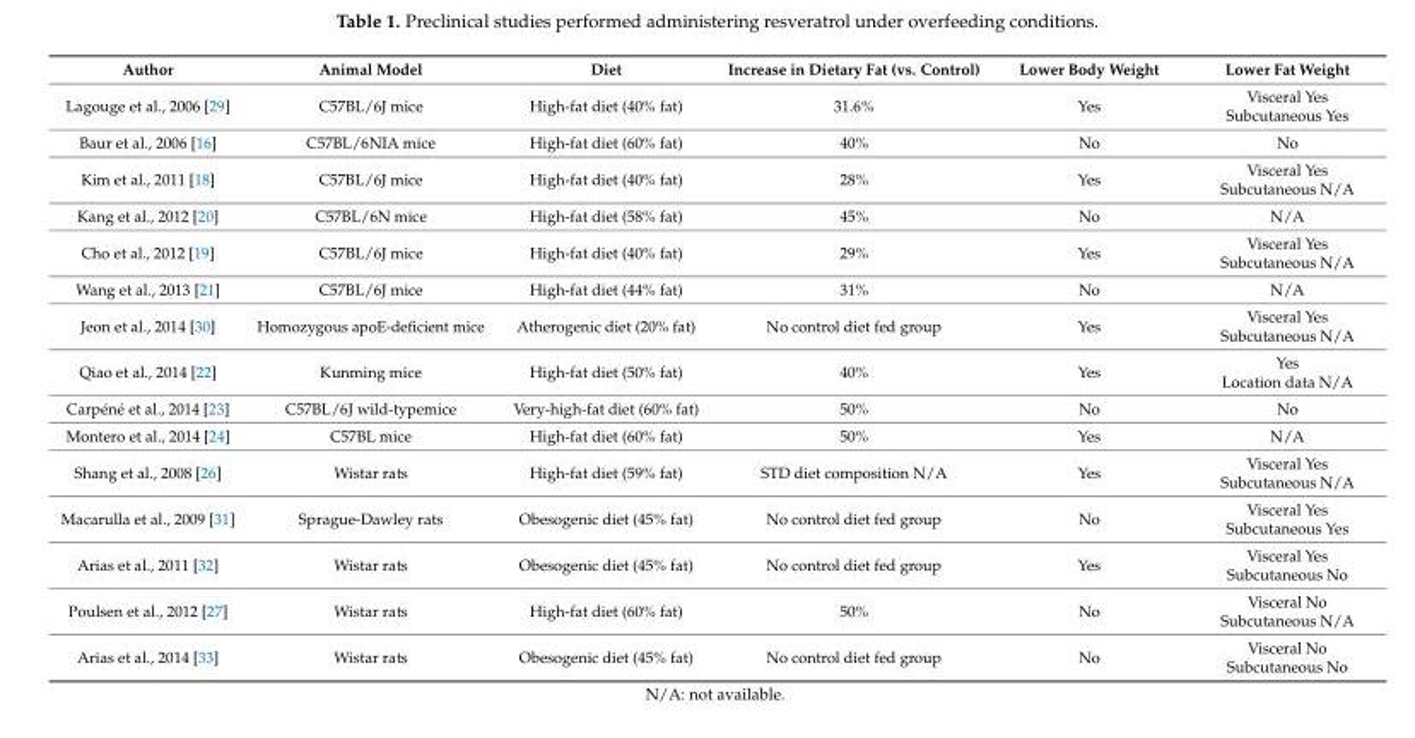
<table><thead><tr><td>Author</td><td>Animal Model</td><td>Diet</td><td>Increase in Dietary Fat (vs. Control)</td><td>Lower Body Weight</td><td>Lower Fat Weight</td></tr></thead><tbody><tr><td>Lagouge et al., 2006 [29]</td><td>C57BL/6J mice</td><td>High-fat diet (40% fat)</td><td>31.6%</td><td>Yes</td><td>Visceral Yes Subcutaneous Yes</td></tr><tr><td>Baur et al., 2006 [16]</td><td>C57BL/6NIA mice</td><td>High-fat diet (60% fat)</td><td>40%</td><td>No</td><td>No</td></tr><tr><td>Kim et al., 2011 [18]</td><td>C57BL/6J mice</td><td>High-fat diet (40% fat)</td><td>28%</td><td>Yes</td><td>Visceral Yes Subcutaneous N/A</td></tr><tr><td>Kang et al., 2012 [20]</td><td>C57BL/6N mice</td><td>High-fat diet (58% fat)</td><td>45%</td><td>No</td><td>N/A</td></tr><tr><td>Cho et al., 2012 [19]</td><td>C57BL/6J mice</td><td>High-fat diet (40% fat)</td><td>29%</td><td>Yes</td><td>Visceral Yes Subcutaneous N/A</td></tr><tr><td>Wang et al., 2013 [21]</td><td>C57BL/6J mice</td><td>High-fat diet (44% fat)</td><td>31%</td><td>No</td><td>N/A</td></tr><tr><td>Jeon et al., 2014 [30]</td><td>Homozygous apoE-deficient mice</td><td>Atherogenic diet (20% fat)</td><td>No control diet fed group</td><td>Yes</td><td>Visceral Yes Subcutaneous N/A</td></tr><tr><td>Qiao et al., 2014 [22]</td><td>Kunming mice</td><td>High-fat diet (50% fat)</td><td>40%</td><td>Yes</td><td>Yes Location data N/A</td></tr><tr><td>Carpéné et al., 2014 [23]</td><td>C57BL/6J wild-typemice</td><td>Very-high-fat diet (60% fat)</td><td>50%</td><td>No</td><td>No</td></tr><tr><td>Montero et al., 2014 [24]</td><td>C57BL mice</td><td>High-fat diet (60% fat)</td><td>50%</td><td>Yes</td><td>N/A</td></tr><tr><td>Shang et al., 2008 [26]</td><td>Wistar rats</td><td>High-fat diet (59% fat)</td><td>STD diet composition N/A</td><td>Yes</td><td>Visceral Yes Subcutaneous N/A</td></tr><tr><td>Macarulla et al., 2009 [31]</td><td>Sprague-Dawley rats</td><td>Obesogenic diet (45% fat)</td><td>No control diet fed group</td><td>No</td><td>Visceral Yes Subcutaneous Yes</td></tr><tr><td>Arias et al., 2011 [32]</td><td>Wistar rats</td><td>Obesogenic diet (45% fat)</td><td>No control diet fed group</td><td>Yes</td><td>Visceral Yes Subcutaneous No</td></tr><tr><td>Poulsen et al., 2012 [27]</td><td>Wistar rats</td><td>High-fat diet (60% fat)</td><td>50%</td><td>No</td><td>Visceral No Subcutaneous N/A</td></tr><tr><td>Arias et al., 2014 [33]</td><td>Wistar rats</td><td>Obesogenic diet (45% fat)</td><td>No control diet fed group</td><td>No</td><td>Visceral No Subcutaneous No</td></tr></tbody></table>